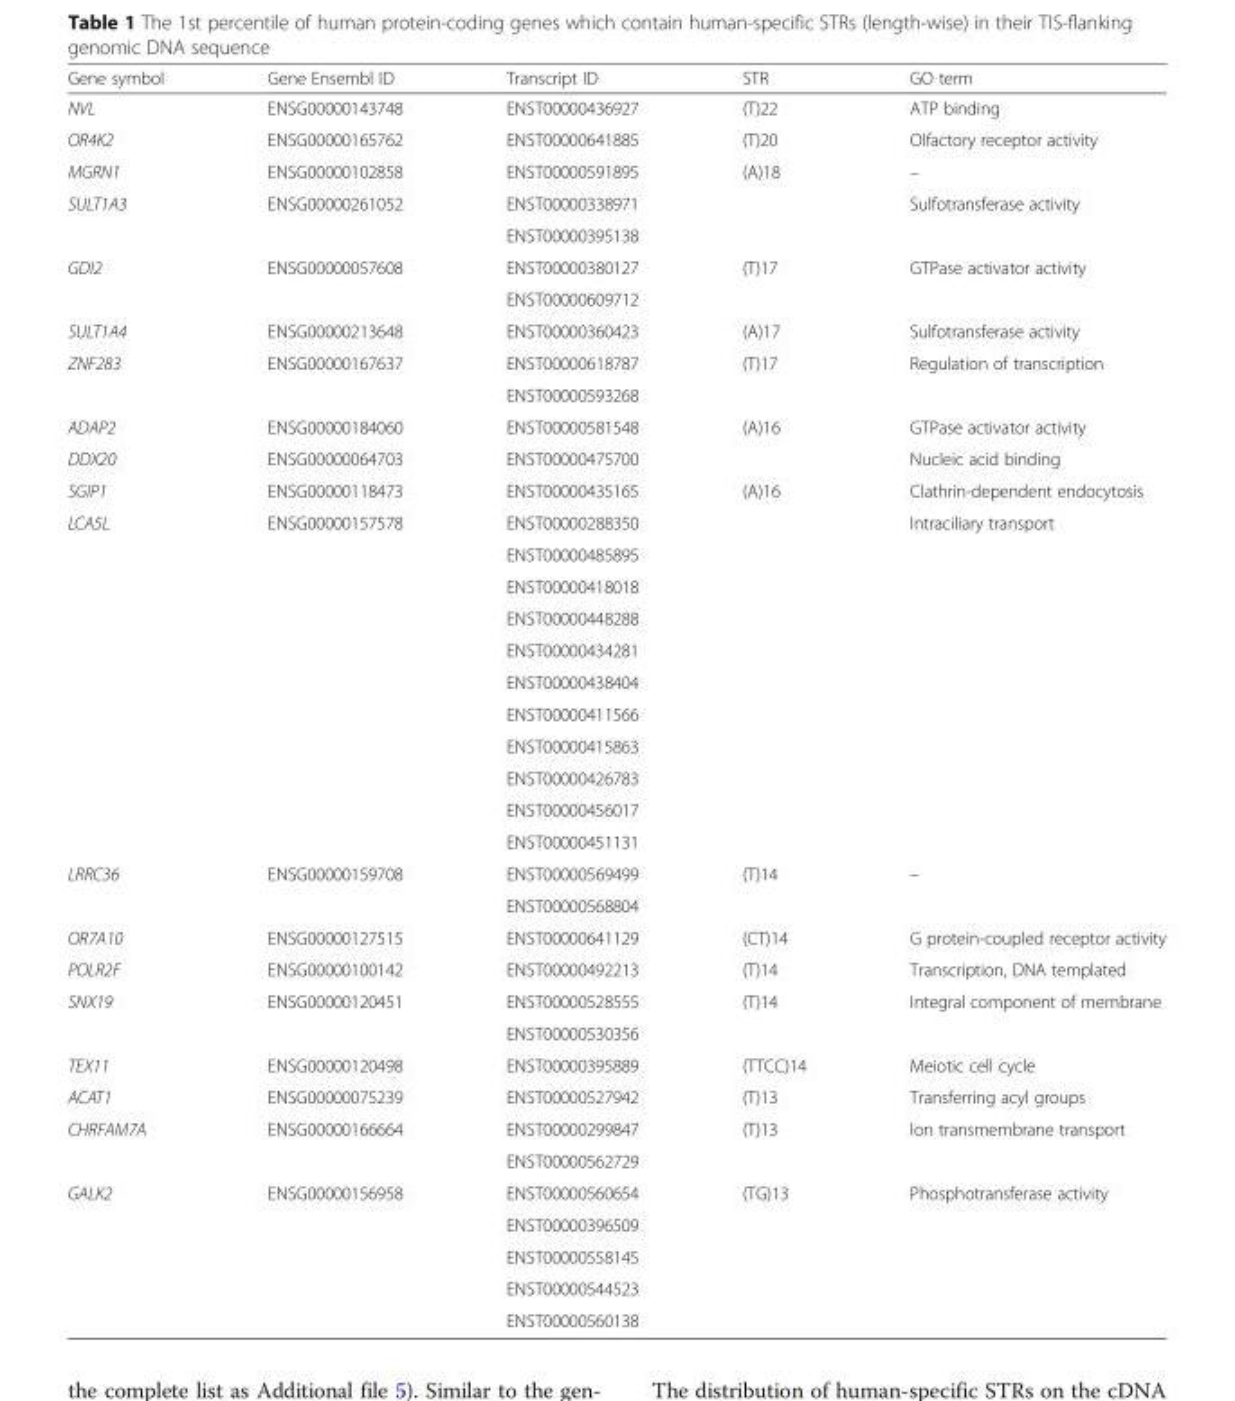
<table><thead><tr><td>Gene symbol</td><td>Gene Ensembl ID</td><td>Transcript ID</td><td>STR</td><td>GO term</td></tr></thead><tbody><tr><td>NVL</td><td>ENSG00000143748</td><td>ENST00000436927</td><td>(T)22</td><td>ATP binding</td></tr><tr><td>OR4K2</td><td>ENSG00000165762</td><td>ENST00000641885</td><td>(T)20</td><td>Olfactory receptor activity</td></tr><tr><td>MGRN1</td><td>ENSG00000102858</td><td>ENST00000591895</td><td rowspan="3">(A)18</td><td>–</td></tr><tr><td rowspan="2">SULT1A3</td><td rowspan="2">ENSG00000261052</td><td>ENST00000338971</td><td>Sulfotransferase activity</td></tr><tr><td>ENST00000395138</td><td></td></tr><tr><td rowspan="2">GDI2</td><td rowspan="2">ENSG00000057608</td><td>ENST00000380127</td><td rowspan="2">(T)17</td><td>GTPase activator activity</td></tr><tr><td>ENST00000609712</td><td></td></tr><tr><td>SULT1A4</td><td>ENSG00000213648</td><td>ENST00000360423</td><td>(A)17</td><td>Sulfotransferase activity</td></tr><tr><td rowspan="2">ZNF283</td><td rowspan="2">ENSG00000167637</td><td>ENST00000618787</td><td rowspan="2">(T)17</td><td>Regulation of transcription</td></tr><tr><td>ENST00000593268</td><td></td></tr><tr><td>ADAP2</td><td>ENSG00000184060</td><td>ENST00000581548</td><td rowspan="2">(A)16</td><td>GTPase activator activity</td></tr><tr><td>DDX20</td><td>ENSG00000064703</td><td>ENST00000475700</td><td>Nucleic acid binding</td></tr><tr><td>SGIP1</td><td>ENSG00000118473</td><td>ENST00000435165</td><td>(A)16</td><td>Clathrin-dependent endocytosis</td></tr><tr><td rowspan="11">LCA5L</td><td rowspan="11">ENSG00000157578</td><td>ENST00000288350</td><td rowspan="11"></td><td>Intraciliary transport</td></tr><tr><td>ENST00000485895</td><td></td></tr><tr><td>ENST00000418018</td><td></td></tr><tr><td>ENST00000448288</td><td></td></tr><tr><td>ENST00000434281</td><td></td></tr><tr><td>ENST00000438404</td><td></td></tr><tr><td>ENST00000411566</td><td></td></tr><tr><td>ENST00000415863</td><td></td></tr><tr><td>ENST00000426783</td><td></td></tr><tr><td>ENST00000456017</td><td></td></tr><tr><td>ENST00000451131</td><td></td></tr><tr><td rowspan="2">LRRC36</td><td rowspan="2">ENSG00000159708</td><td>ENST00000569499</td><td rowspan="2">(T)14</td><td>–</td></tr><tr><td>ENST00000568804</td><td></td></tr><tr><td>OR7A10</td><td>ENSG00000127515</td><td>ENST00000641129</td><td>(CT)14</td><td>G protein-coupled receptor activity</td></tr><tr><td>POLR2F</td><td>ENSG00000100142</td><td>ENST00000492213</td><td>(T)14</td><td>Transcription, DNA templated</td></tr><tr><td rowspan="2">SNX19</td><td rowspan="2">ENSG00000120451</td><td>ENST00000528555</td><td>(T)14</td><td>Integral component of membrane</td></tr><tr><td>ENST00000530356</td><td></td><td></td></tr><tr><td>TEX11</td><td>ENSG00000120498</td><td>ENST00000395889</td><td>(TTCC)14</td><td>Meiotic cell cycle</td></tr><tr><td>ACAT1</td><td>ENSG00000075239</td><td>ENST00000527942</td><td>(T)13</td><td>Transferring acyl groups</td></tr><tr><td rowspan="2">CHRFAM7A</td><td rowspan="2">ENSG00000166664</td><td>ENST00000299847</td><td>(T)13</td><td>Ion transmembrane transport</td></tr><tr><td>ENST00000562729</td><td></td><td></td></tr><tr><td rowspan="5">GALK2</td><td rowspan="5">ENSG00000156958</td><td>ENST00000560654</td><td>(TG)13</td><td>Phosphotransferase activity</td></tr><tr><td>ENST00000396509</td><td></td><td></td></tr><tr><td>ENST00000558145</td><td></td><td></td></tr><tr><td>ENST00000544523</td><td></td><td></td></tr><tr><td>ENST00000560138</td><td></td><td></td></tr></tbody></table>